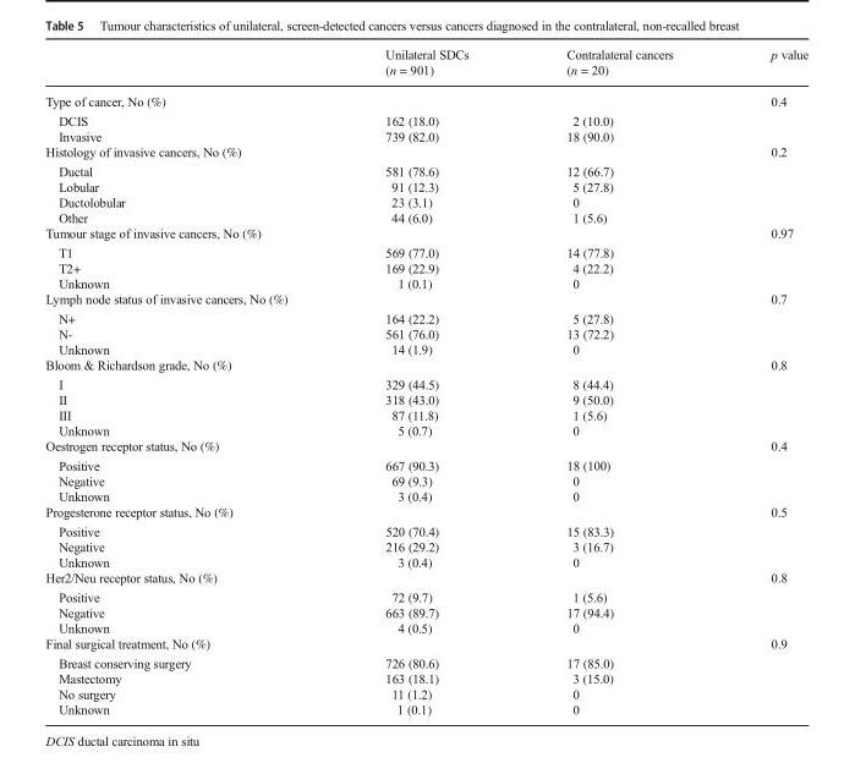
<table><thead><tr><td></td><td>Unilateral SDCs (n = 901)</td><td>Contralateral cancers (n = 20)</td><td>p value</td></tr></thead><tbody><tr><td>Type of cancer, No (%)</td><td></td><td></td><td>0.4</td></tr><tr><td>DCIS Invasive</td><td>162 (18.0) 739 (82.0)</td><td>2 (10.0) 18 (90.0)</td><td></td></tr><tr><td>Histology of invasive cancers, No (%)</td><td></td><td></td><td>0.2</td></tr><tr><td>Ductal Lobular Ductolobular Other</td><td>581 (78.6) 91 (12.3) 23 (3.1) 44 (6.0)</td><td>12 (66.7) 5 (27.8) 0 1 (5.6)</td><td></td></tr><tr><td>Tumour stage of invasive cancers, No (%)</td><td></td><td></td><td>0.97</td></tr><tr><td>T1 T2+ Unknown</td><td>569 (77.0) 169 (22.9) 1 (0.1)</td><td>14 (77.8) 4 (22.2) 0</td><td></td></tr><tr><td>Lymph node status of invasive cancers, No (%)</td><td></td><td></td><td>0.7</td></tr><tr><td>N+ N- Unknown</td><td>164 (22.2) 561 (76.0) 14 (1.9)</td><td>5 (27.8) 13 (72.2) 0</td><td></td></tr><tr><td>Bloom &amp; Richardson grade, No (%)</td><td></td><td></td><td>0.8</td></tr><tr><td>I II III Unknown</td><td>329 (44.5) 318 (43.0) 87 (11.8) 5 (0.7)</td><td>8 (44.4) 9 (50.0) 1 (5.6) 0</td><td></td></tr><tr><td>Oestrogen receptor status, No (%)</td><td></td><td></td><td>0.4</td></tr><tr><td>Positive Negative Unknown</td><td>667 (90.3) 69 (9.3) 3 (0.4)</td><td>18 (100) 0 0</td><td></td></tr><tr><td>Progesterone receptor status, No (%)</td><td></td><td></td><td>0.5</td></tr><tr><td>Positive Negative Unknown</td><td>520 (70.4) 216 (29.2) 3 (0.4)</td><td>15 (83.3) 3 (16.7) 0</td><td></td></tr><tr><td>Her2/Neu receptor status, No (%)</td><td></td><td></td><td>0.8</td></tr><tr><td>Positive Negative Unknown</td><td>72 (9.7) 663 (89.7) 4 (0.5)</td><td>1 (5.6) 17 (94.4) 0</td><td></td></tr><tr><td>Final surgical treatment, No (%)</td><td></td><td></td><td>0.9</td></tr><tr><td>Breast conserving surgery Mastectomy No surgery Unknown</td><td>726 (80.6) 163 (18.1) 11 (1.2) 1 (0.1)</td><td>17 (85.0) 3 (15.0) 0 0</td><td></td></tr></tbody></table>